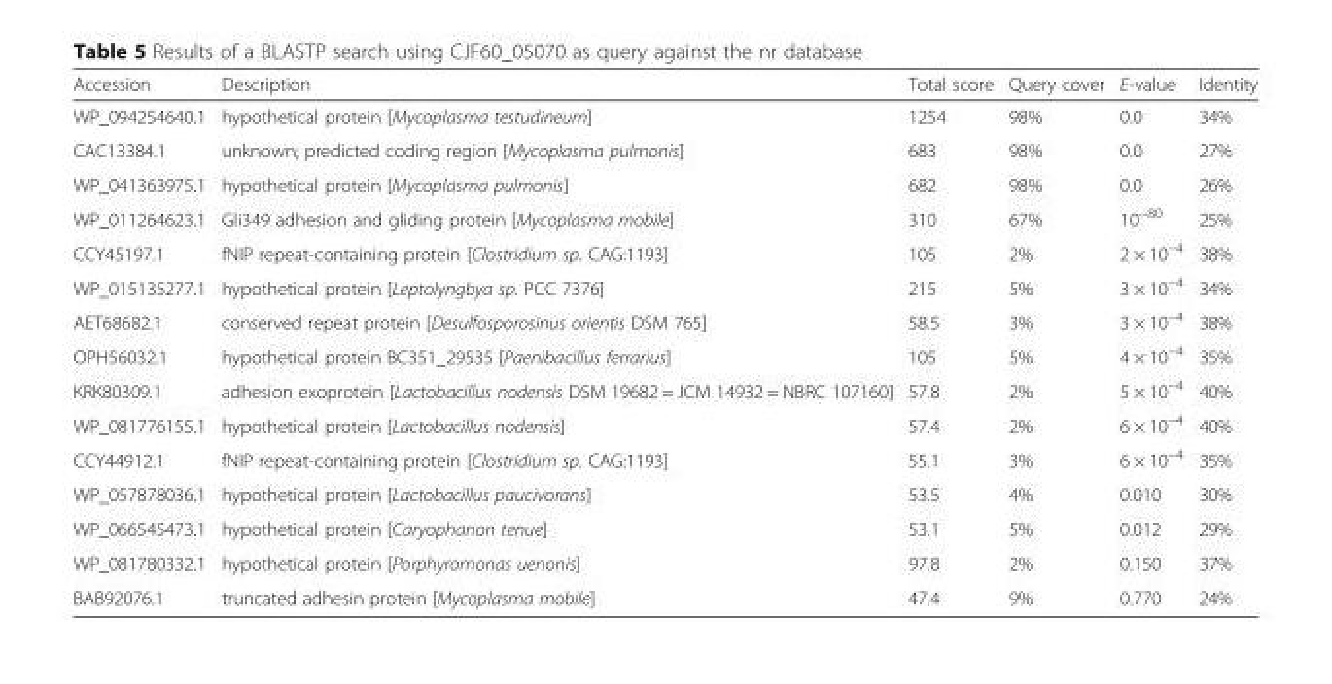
<table><thead><tr><td>Accession</td><td>Description</td><td>Total score</td><td>Query cover</td><td>E-value</td><td>Identity</td></tr></thead><tbody><tr><td>WP_094254640.1</td><td>hypothetical protein [Mycoplasma testudineum]</td><td>1254</td><td>98%</td><td>0.0</td><td>34%</td></tr><tr><td>CAC13384.1</td><td>unknown; predicted coding region [Mycoplasma pulmonis]</td><td>683</td><td>98%</td><td>0.0</td><td>27%</td></tr><tr><td>WP_041363975.1</td><td>hypothetical protein [Mycoplasma pulmonis]</td><td>682</td><td>98%</td><td>0.0</td><td>26%</td></tr><tr><td>WP_011264623.1</td><td>Gli349 adhesion and gliding protein [Mycoplasma mobile]</td><td>310</td><td>67%</td><td>10<sup>−80</sup></td><td>25%</td></tr><tr><td>CCY45197.1</td><td>fNIP repeat-containing protein [Clostridium sp. CAG:1193]</td><td>105</td><td>2%</td><td>2 × 10<sup>−4</sup></td><td>38%</td></tr><tr><td>WP_015135277.1</td><td>hypothetical protein [Leptolyngbya sp. PCC 7376]</td><td>215</td><td>5%</td><td>3 × 10<sup>−4</sup></td><td>34%</td></tr><tr><td>AET68682.1</td><td>conserved repeat protein [Desulfosporosinus orientis DSM 765]</td><td>58.5</td><td>3%</td><td>3 × 10<sup>−4</sup></td><td>38%</td></tr><tr><td>OPH56032.1</td><td>hypothetical protein BC351_29535 [Paenibacillus ferrarius]</td><td>105</td><td>5%</td><td>4 × 10<sup>−4</sup></td><td>35%</td></tr><tr><td>KRK80309.1</td><td>adhesion exoprotein [Lactobacillus nodensis DSM 19682 = JCM 14932 = NBRC 107160]</td><td>57.8</td><td>2%</td><td>5 × 10<sup>−4</sup></td><td>40%</td></tr><tr><td>WP_081776155.1</td><td>hypothetical protein [Lactobacillus nodensis]</td><td>57.4</td><td>2%</td><td>6 × 10<sup>−4</sup></td><td>40%</td></tr><tr><td>CCY44912.1</td><td>fNIP repeat-containing protein [Clostridium sp. CAG:1193]</td><td>55.1</td><td>3%</td><td>6 × 10<sup>−4</sup></td><td>35%</td></tr><tr><td>WP_057878036.1</td><td>hypothetical protein [Lactobacillus paucivorans]</td><td>53.5</td><td>4%</td><td>0.010</td><td>30%</td></tr><tr><td>WP_066545473.1</td><td>hypothetical protein [Caryophanon tenue]</td><td>53.1</td><td>5%</td><td>0.012</td><td>29%</td></tr><tr><td>WP_081780332.1</td><td>hypothetical protein [Porphyromonas uenonis]</td><td>97.8</td><td>2%</td><td>0.150</td><td>37%</td></tr><tr><td>BAB92076.1</td><td>truncated adhesin protein [Mycoplasma mobile]</td><td>47.4</td><td>9%</td><td>0.770</td><td>24%</td></tr></tbody></table>